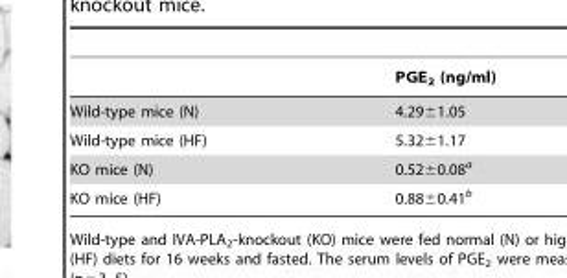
<table><thead><tr><td></td><td>PGE<sub>2</sub> (ng/ml)</td></tr></thead><tbody><tr><td>Wild-type mice (N)</td><td>4.29±1.05</td></tr><tr><td>Wild-type mice (HF)</td><td>5.32±1.17</td></tr><tr><td>KO mice (N)</td><td>0.52±0.08<sup>a</sup></td></tr><tr><td>KO mice (HF)</td><td>0.88±0.41<sup>b</sup></td></tr></tbody></table>